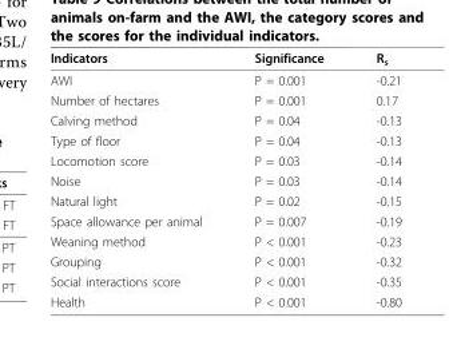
<table><thead><tr><td>Indicators</td><td>Significance</td><td>R<sub>s</sub></td></tr></thead><tbody><tr><td>AWI</td><td>P = 0.001</td><td>-0.21</td></tr><tr><td>Number of hectares</td><td>P = 0.001</td><td>0.17</td></tr><tr><td>Calving method</td><td>P = 0.04</td><td>-0.13</td></tr><tr><td>Type of floor</td><td>P = 0.04</td><td>-0.13</td></tr><tr><td>Locomotion score</td><td>P = 0.03</td><td>-0.14</td></tr><tr><td>Noise</td><td>P = 0.03</td><td>-0.14</td></tr><tr><td>Natural light</td><td>P = 0.02</td><td>-0.15</td></tr><tr><td>Space allowance per animal</td><td>P = 0.007</td><td>-0.19</td></tr><tr><td>Weaning method</td><td>P &lt; 0.001</td><td>-0.23</td></tr><tr><td>Grouping</td><td>P &lt; 0.001</td><td>-0.32</td></tr><tr><td>Social interactions score</td><td>P &lt; 0.001</td><td>-0.35</td></tr><tr><td>Health</td><td>P &lt; 0.001</td><td>-0.80</td></tr></tbody></table>